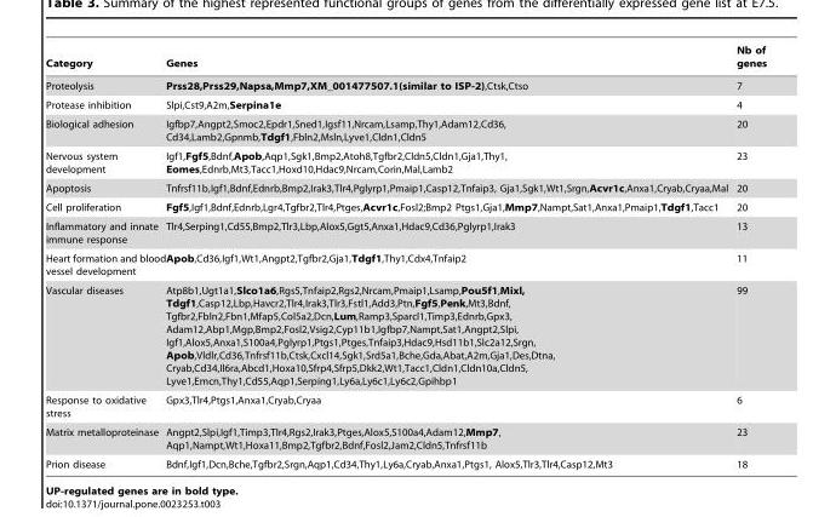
<table><thead><tr><td>Category</td><td>Genes</td><td>Nb of genes</td></tr></thead><tbody><tr><td>Proteolysis</td><td>Prss28,Prss29,Napsa,Mmp7,XM_001477507.1(similar to ISP-2),Ctsk,Ctso</td><td>7</td></tr><tr><td>Protease inhibition</td><td>Slpi,Cst9,A2m,Serpina1e</td><td>4</td></tr><tr><td>Biological adhesion</td><td>Igfbp7,Angpt2,Smoc2,Epdr1,Sned1,Igsf11,Nrcam,Lsamp,Thy1,Adam12,Cd36, Cd34,Lamb2,Gpnmb,Tdgf1,Fbln2,Msln,Lyve1,Cldn1,Cldn5</td><td>20</td></tr><tr><td>Nervous system development</td><td>Igf1,Fgf5,Bdnf,Apob,Aqp1,Sgk1,Bmp2,Atoh8,Tgfbr2,Cldn5,Cldn1,Gja1,Thy1, Eomes,Ednrb,Mt3,Tacc1,Hoxd10,Hdac9,Nrcam,Corin,Mal,Lamb2</td><td>23</td></tr><tr><td>Apoptosis</td><td>Tnfrsf11b,Igf1,Bdnf,Ednrb,Bmp2,Irak3,Tlr4,Pglyrp1,Pmaip1,Casp12,Tnfaip3, Gja1,Sgk1,Wt1,Srgn,Acvr1c,Anxa1,Cryab,Cryaa,Mal</td><td>20</td></tr><tr><td>Cell proliferation</td><td>Fgf5,Igf1,Bdnf,Ednrb,Lgr4,Tgfbr2,Tlr4,Ptges,Acvr1c,Fosl2;Bmp2 Ptgs1,Gja1,Mmp7,Nampt,Sat1,Anxa1,Pmaip1,Tdgf1,Tacc1</td><td>20</td></tr><tr><td>Inflammatory and innate immune response</td><td>Tlr4,Serping1,Cd55,Bmp2,Tlr3,Lbp,Alox5,Ggt5,Anxa1,Hdac9,Cd36,Pglyrp1,Irak3</td><td>13</td></tr><tr><td>Heart formation and blood vessel development</td><td>Apob,Cd36,Igf1,Wt1,Angpt2,Tgfbr2,Gja1,Tdgf1,Thy1,Cdx4,Tnfaip2</td><td>11</td></tr><tr><td>Vascular diseases</td><td>Atp8b1,Ugt1a1,Slco1a6,Rgs5,Tnfaip2,Rgs2,Nrcam,Pmaip1,Lsamp,Pou5f1,Mixl, Tdgf1,Casp12,Lbp,Havcr2,Tlr4,Irak3,Tlr3,Fstl1,Add3,Ptn,Fgf5,Penk,Mt3,Bdnf, Tgfbr2,Fbln2,Fbn1,Mfap5,Col5a2,Dcn,Lum,Ramp3,Sparcl1,Timp3,Ednrb,Gpx3, Adam12,Abp1,Mgp,Bmp2,Fosl2,Vsig2,Cyp11b1,Igfbp7,Nampt,Sat1,Angpt2,Slpi, Igf1,Alox5,Anxa1,S100a4,Pglyrp1,Ptgs1,Ptges,Tnfaip3,Hdac9,Hsd11b1,Slc2a12,Srgn, Apob,Vldlr,Cd36,Tnfrsf11b,Ctsk,Cxcl14,Sgk1,Srd5a1,Bche,Gda,Abat,A2m,Gja1,Des,Dtna, Cryab,Cd34,Il6ra,Abcd1,Hoxa10,Sfrp4,Sfrp5,Dkk2,Wt1,Tacc1,Cldn1,Cldn10a,Cldn5, Lyve1,Emcn,Thy1,Cd55,Aqp1,Serping1,Ly6a,Ly6c1,Ly6c2,Gpihbp1</td><td>99</td></tr><tr><td>Response to oxidative stress</td><td>Gpx3,Tlr4,Ptgs1,Anxa1,Cryab,Cryaa</td><td>6</td></tr><tr><td>Matrix metalloproteinase</td><td>Angpt2,Slpi,Igf1,Timp3,Tlr4,Rgs2,Irak3,Ptges,Alox5,S100a4,Adam12,Mmp7, Aqp1,Nampt,Wt1,Hoxa11,Bmp2,Tgfbr2,Bdnf,Fosl2,Jam2,Cldn5,Tnfrsf11b</td><td>23</td></tr><tr><td>Prion disease</td><td>Bdnf,Igf1,Dcn,Bche,Tgfbr2,Srgn,Aqp1,Cd34,Thy1,Ly6a,Cryab,Anxa1,Ptgs1, Alox5,Tlr3,Tlr4,Casp12,Mt3</td><td>18</td></tr></tbody></table>